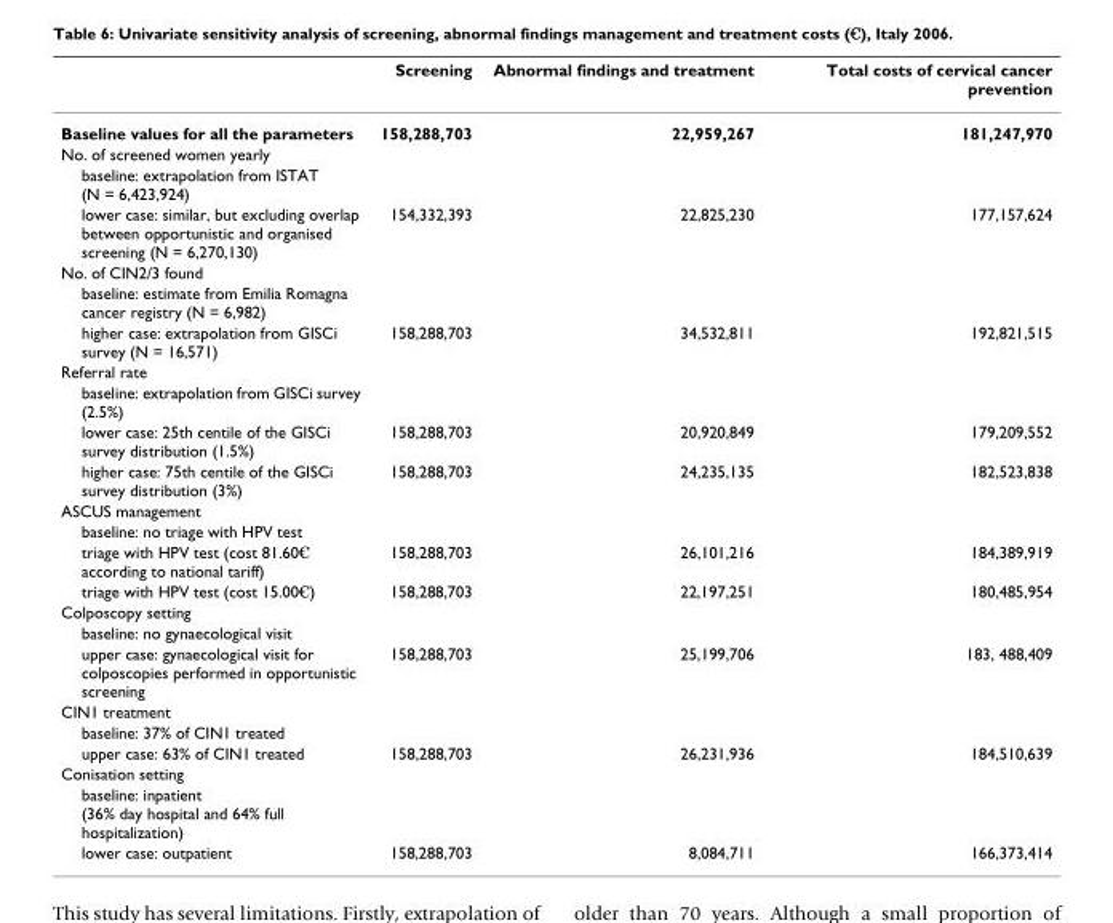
<table><thead><tr><td></td><td>Screening</td><td>Abnormal findings and treatment</td><td>Total costs of cervical cancer prevention</td></tr></thead><tbody><tr><td>Baseline values for all the parameters</td><td>158,288,703</td><td>22,959,267</td><td>181,247,970</td></tr><tr><td colspan="4">No. of screened women yearly</td></tr><tr><td colspan="4">baseline: extrapolation from ISTAT (N = 6,423,924)</td></tr><tr><td>lower case: similar, but excluding overlap between opportunistic and organised screening (N = 6,270,130)</td><td>154,332,393</td><td>22,825,230</td><td>177,157,624</td></tr><tr><td colspan="4">No. of CIN2/3 found</td></tr><tr><td colspan="4">baseline: estimate from Emilia Romagna cancer registry (N = 6,982)</td></tr><tr><td>higher case: extrapolation from GISCi survey (N = 16,571)</td><td>158,288,703</td><td>34,532,811</td><td>192,821,515</td></tr><tr><td colspan="4">Referral rate</td></tr><tr><td colspan="4">baseline: extrapolation from GISCi survey (2.5%)</td></tr><tr><td>lower case: 25th centile of the GISCi survey distribution (1.5%)</td><td>158,288,703</td><td>20,920,849</td><td>179,209,552</td></tr><tr><td>higher case: 75th centile of the GISCi survey distribution (3%)</td><td>158,288,703</td><td>24,235,135</td><td>182,523,838</td></tr><tr><td colspan="4">ASCUS management</td></tr><tr><td colspan="4">baseline: no triage with HPV test</td></tr><tr><td>triage with HPV test (cost 81.60€ according to national tariff)</td><td>158,288,703</td><td>26,101,216</td><td>184,389,919</td></tr><tr><td>triage with HPV test (cost 15.00€)</td><td>158,288,703</td><td>22,197,251</td><td>180,485,954</td></tr><tr><td colspan="4">Colposcopy setting</td></tr><tr><td colspan="4">baseline: no gynaecological visit</td></tr><tr><td>upper case: gynaecological visit for colposcopies performed in opportunistic screening</td><td>158,288,703</td><td>25,199,706</td><td>183, 488,409</td></tr><tr><td colspan="4">CIN1 treatment</td></tr><tr><td colspan="4">baseline: 37% of CIN1 treated</td></tr><tr><td>upper case: 63% of CIN1 treated</td><td>158,288,703</td><td>26,231,936</td><td>184,510,639</td></tr><tr><td colspan="4">Conisation setting</td></tr><tr><td colspan="4">baseline: inpatient (36% day hospital and 64% full hospitalization)</td></tr><tr><td>lower case: outpatient</td><td>158,288,703</td><td>8,084,711</td><td>166,373,414</td></tr></tbody></table>